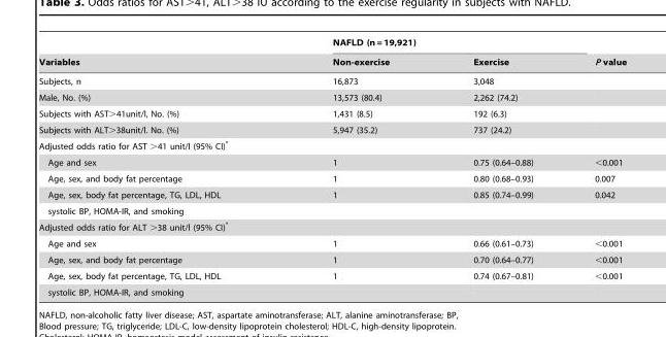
<table><thead><tr><td rowspan="2">Variables</td><td colspan="2">NAFLD (n = 19,921)</td><td rowspan="2">P value</td></tr><tr><td>Non-exercise</td><td>Exercise</td></tr></thead><tbody><tr><td>Subjects, n</td><td>16,873</td><td>3,048</td><td></td></tr><tr><td>Male, No. (%)</td><td>13,573 (80.4)</td><td>2,262 (74.2)</td><td></td></tr><tr><td>Subjects with AST&gt;41unit/l, No. (%)</td><td>1,431 (8.5)</td><td>192 (6.3)</td><td></td></tr><tr><td>Subjects with ALT&gt;38unit/l. No. (%)</td><td>5,947 (35.2)</td><td>737 (24.2)</td><td></td></tr><tr><td colspan="4">Adjusted odds ratio for AST &gt;41 unit/l (95% CI)*</td></tr><tr><td>Age and sex</td><td>1</td><td>0.75 (0.64–0.88)</td><td>&lt;0.001</td></tr><tr><td>Age, sex, and body fat percentage</td><td>1</td><td>0.80 (0.68–0.93)</td><td>0.007</td></tr><tr><td>Age, sex, body fat percentage, TG, LDL, HDL</td><td>1</td><td>0.85 (0.74–0.99)</td><td>0.042</td></tr><tr><td colspan="4">systolic BP, HOMA-IR, and smoking</td></tr><tr><td colspan="4">Adjusted odds ratio for ALT &gt;38 unit/l (95% CI)*</td></tr><tr><td>Age and sex</td><td>1</td><td>0.66 (0.61–0.73)</td><td>&lt;0.001</td></tr><tr><td>Age, sex, and body fat percentage</td><td>1</td><td>0.70 (0.64–0.77)</td><td>&lt;0.001</td></tr><tr><td>Age, sex, body fat percentage, TG, LDL, HDL</td><td>1</td><td>0.74 (0.67–0.81)</td><td>&lt;0.001</td></tr><tr><td>systolic BP, HOMA-IR, and smoking</td><td></td><td></td><td></td></tr></tbody></table>